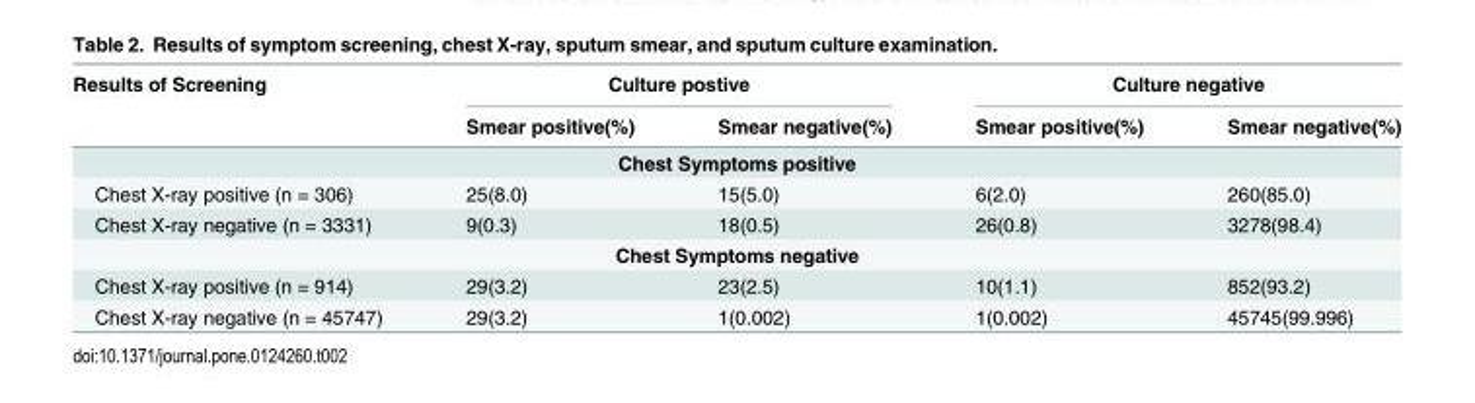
<table><thead><tr><td rowspan="2">Results of Screening</td><td colspan="2">Culture postive</td><td colspan="2">Culture negative</td></tr><tr><td>Smear positive(%)</td><td>Smear negative(%)</td><td>Smear positive(%)</td><td>Smear negative(%)</td></tr></thead><tbody><tr><td colspan="5">Chest Symptoms positive</td></tr><tr><td>Chest X-ray positive (n = 306)</td><td>25(8.0)</td><td>15(5.0)</td><td>6(2.0)</td><td>260(85.0)</td></tr><tr><td>Chest X-ray negative (n = 3331)</td><td>9(0.3)</td><td>18(0.5)</td><td>26(0.8)</td><td>3278(98.4)</td></tr><tr><td colspan="5">Chest Symptoms negative</td></tr><tr><td>Chest X-ray positive (n = 914)</td><td>29(3.2)</td><td>23(2.5)</td><td>10(1.1)</td><td>852(93.2)</td></tr><tr><td>Chest X-ray negative (n = 45747)</td><td>29(3.2)</td><td>1(0.002)</td><td>1(0.002)</td><td>45745(99.996)</td></tr></tbody></table>